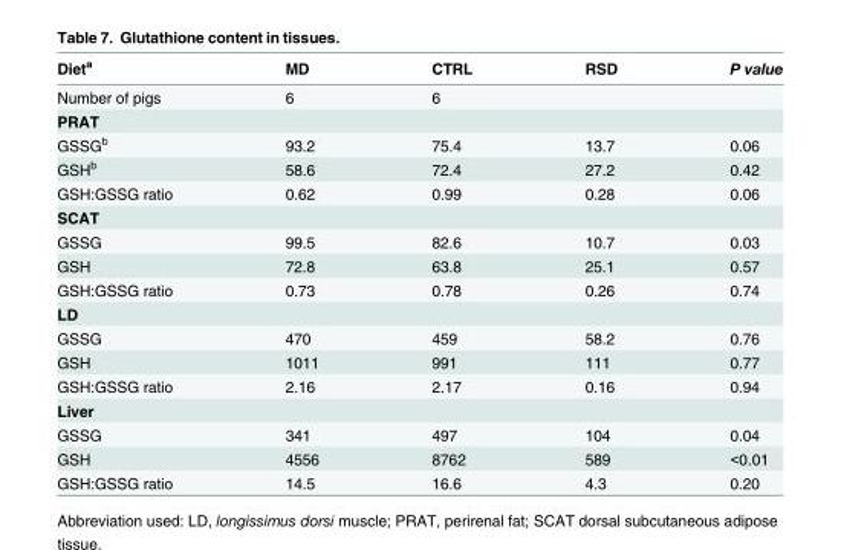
<table><thead><tr><td>Diet<sup>a</sup></td><td>MD</td><td>CTRL</td><td>RSD</td><td>P value</td></tr></thead><tbody><tr><td>Number of pigs</td><td>6</td><td>6</td><td></td><td></td></tr><tr><td colspan="5">PRAT</td></tr><tr><td>GSSG<sup>b</sup></td><td>93.2</td><td>75.4</td><td>13.7</td><td>0.06</td></tr><tr><td>GSH<sup>b</sup></td><td>58.6</td><td>72.4</td><td>27.2</td><td>0.42</td></tr><tr><td>GSH:GSSG ratio</td><td>0.62</td><td>0.99</td><td>0.28</td><td>0.06</td></tr><tr><td colspan="5">SCAT</td></tr><tr><td>GSSG</td><td>99.5</td><td>82.6</td><td>10.7</td><td>0.03</td></tr><tr><td>GSH</td><td>72.8</td><td>63.8</td><td>25.1</td><td>0.57</td></tr><tr><td>GSH:GSSG ratio</td><td>0.73</td><td>0.78</td><td>0.26</td><td>0.74</td></tr><tr><td colspan="5">LD</td></tr><tr><td>GSSG</td><td>470</td><td>459</td><td>58.2</td><td>0.76</td></tr><tr><td>GSH</td><td>1011</td><td>991</td><td>111</td><td>0.77</td></tr><tr><td>GSH:GSSG ratio</td><td>2.16</td><td>2.17</td><td>0.16</td><td>0.94</td></tr><tr><td colspan="5">Liver</td></tr><tr><td>GSSG</td><td>341</td><td>497</td><td>104</td><td>0.04</td></tr><tr><td>GSH</td><td>4556</td><td>8762</td><td>589</td><td>&lt;0.01</td></tr><tr><td>GSH:GSSG ratio</td><td>14.5</td><td>16.6</td><td>4.3</td><td>0.20</td></tr></tbody></table>